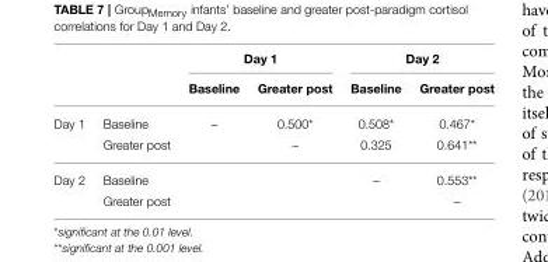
<table><thead><tr><td rowspan="2"></td><td rowspan="2"></td><td colspan="2">Day 1</td><td colspan="2">Day 2</td></tr><tr><td>Baseline</td><td>Greater post</td><td>Baseline</td><td>Greater post</td></tr></thead><tbody><tr><td rowspan="2">Day 1</td><td>Baseline</td><td>–</td><td>0.500*</td><td>0.508*</td><td>0.467*</td></tr><tr><td>Greater post</td><td></td><td>–</td><td>0.325</td><td>0.641**</td></tr><tr><td rowspan="2">Day 2</td><td>Baseline</td><td></td><td></td><td>–</td><td>0.553**</td></tr><tr><td>Greater post</td><td></td><td></td><td></td><td>–</td></tr></tbody></table>